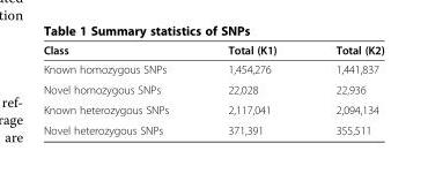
<table><thead><tr><td>Class</td><td>Total (K1)</td><td>Total (K2)</td></tr></thead><tbody><tr><td>Known homozygous SNPs</td><td>1,454,276</td><td>1,441,837</td></tr><tr><td>Novel homozygous SNPs</td><td>22,028</td><td>22,936</td></tr><tr><td>Known heterozygous SNPs</td><td>2,117,041</td><td>2,094,134</td></tr><tr><td>Novel heterozygous SNPs</td><td>371,391</td><td>355,511</td></tr></tbody></table>